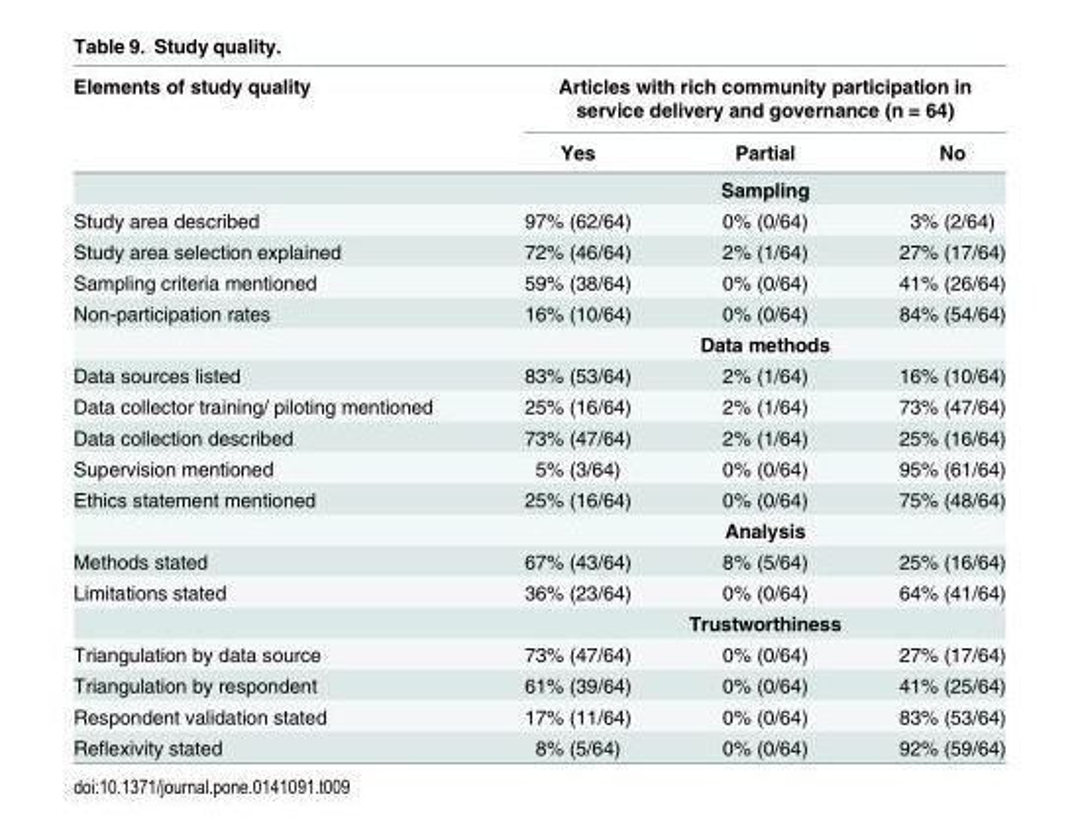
<table><thead><tr><td rowspan="2">Elements of study quality</td><td colspan="3">Articles with rich community participation in service delivery and governance (n = 64)</td></tr><tr><td>Yes</td><td>Partial</td><td>No</td></tr></thead><tbody><tr><td></td><td colspan="3">Sampling</td></tr><tr><td>Study area described</td><td>97% (62/64)</td><td>0% (0/64)</td><td>3% (2/64)</td></tr><tr><td>Study area selection explained</td><td>72% (46/64)</td><td>2% (1/64)</td><td>27% (17/64)</td></tr><tr><td>Sampling criteria mentioned</td><td>59% (38/64)</td><td>0% (0/64)</td><td>41% (26/64)</td></tr><tr><td rowspan="2">Non-participation rates</td><td>16% (10/64)</td><td>0% (0/64)</td><td>84% (54/64)</td></tr><tr><td colspan="3">Data methods</td></tr><tr><td>Data sources listed</td><td>83% (53/64)</td><td>2% (1/64)</td><td>16% (10/64)</td></tr><tr><td>Data collector training/ piloting mentioned</td><td>25% (16/64)</td><td>2% (1/64)</td><td>73% (47/64)</td></tr><tr><td>Data collection described</td><td>73% (47/64)</td><td>2% (1/64)</td><td>25% (16/64)</td></tr><tr><td>Supervision mentioned</td><td>5% (3/64)</td><td>0% (0/64)</td><td>95% (61/64)</td></tr><tr><td rowspan="2">Ethics statement mentioned</td><td>25% (16/64)</td><td>0% (0/64)</td><td>75% (48/64)</td></tr><tr><td colspan="3">Analysis</td></tr><tr><td>Methods stated</td><td>67% (43/64)</td><td>8% (5/64)</td><td>25% (16/64)</td></tr><tr><td rowspan="2">Limitations stated</td><td>36% (23/64)</td><td>0% (0/64)</td><td>64% (41/64)</td></tr><tr><td colspan="3">Trustworthiness</td></tr><tr><td>Triangulation by data source</td><td>73% (47/64)</td><td>0% (0/64)</td><td>27% (17/64)</td></tr><tr><td>Triangulation by respondent</td><td>61% (39/64)</td><td>0% (0/64)</td><td>41% (25/64)</td></tr><tr><td>Respondent validation stated</td><td>17% (11/64)</td><td>0% (0/64)</td><td>83% (53/64)</td></tr><tr><td>Reflexivity stated</td><td>8% (5/64)</td><td>0% (0/64)</td><td>92% (59/64)</td></tr></tbody></table>